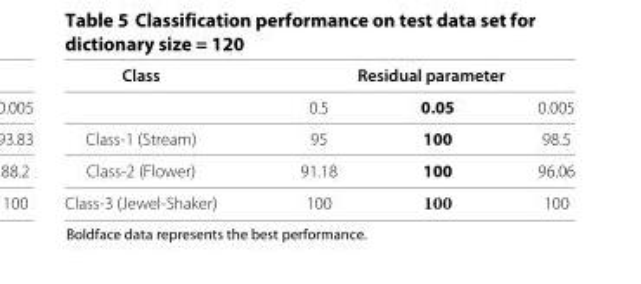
<table><thead><tr><td rowspan="2">Class</td><td colspan="3">Residual parameter</td></tr><tr><td>0.5</td><td>0.05</td><td>0.005</td></tr></thead><tbody><tr><td>Class-1 (Stream)</td><td>95</td><td>100</td><td>98.5</td></tr><tr><td>Class-2 (Flower)</td><td>91.18</td><td>100</td><td>96.06</td></tr><tr><td>Class-3 (Jewel-Shaker)</td><td>100</td><td>100</td><td>100</td></tr></tbody></table>